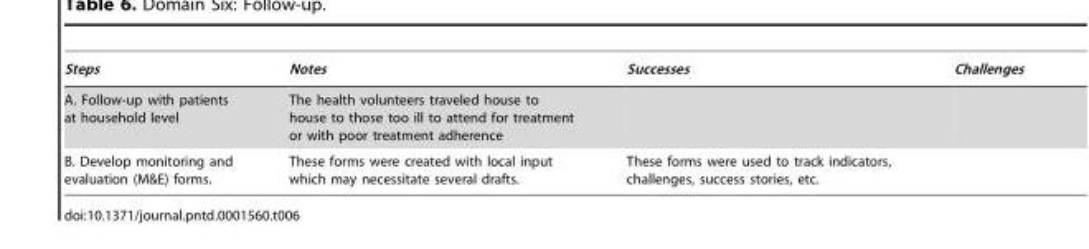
<table><thead><tr><td>Steps</td><td>Notes</td><td>Successes</td><td>Challenges</td></tr></thead><tbody><tr><td>A. Follow-up with patients at household level</td><td>The health volunteers traveled house to house to those too ill to attend for treatment or with poor treatment adherence</td><td></td><td></td></tr><tr><td>B. Develop monitoring and evaluation (M&amp;E) forms.</td><td>These forms were created with local input which may necessitate several drafts.</td><td>These forms were used to track indicators, challenges, success stories, etc.</td><td></td></tr></tbody></table>